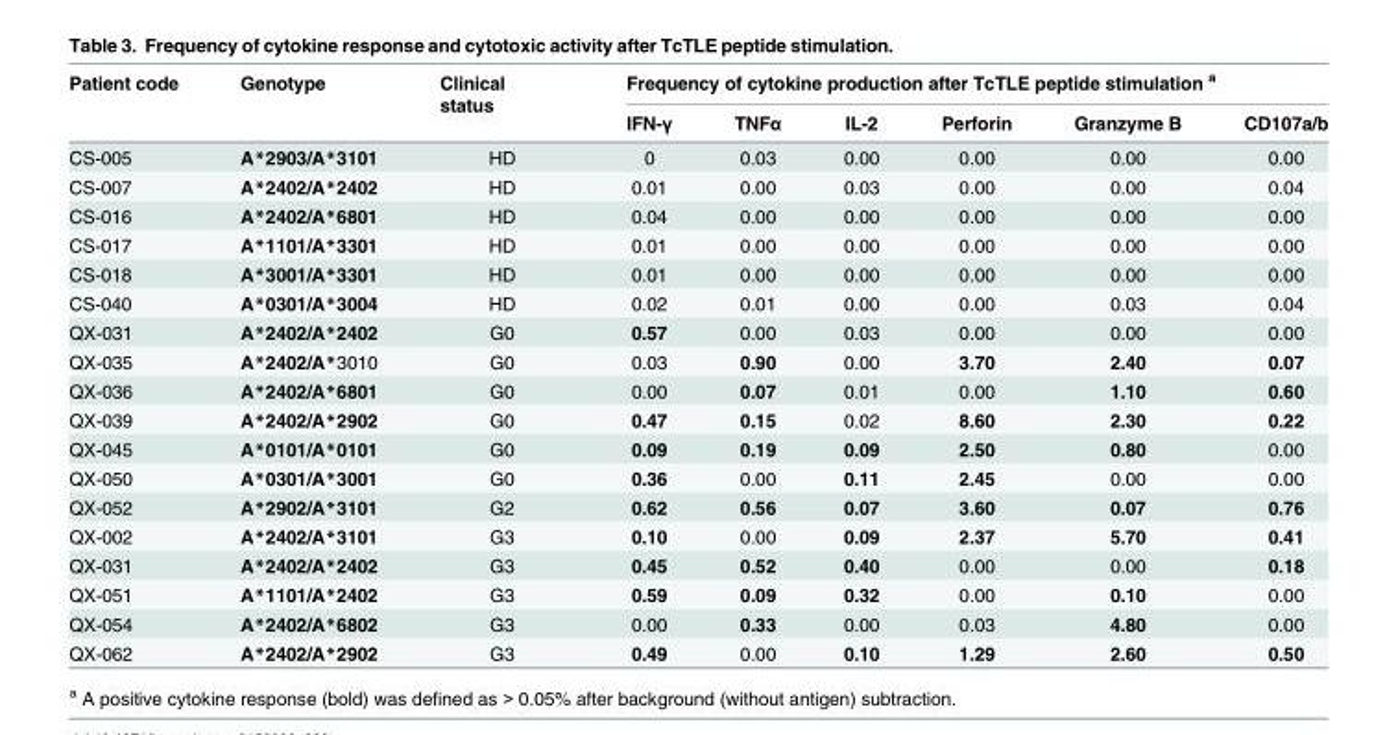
<table><thead><tr><td rowspan="2">Patient code</td><td rowspan="2">Genotype</td><td rowspan="2">Clinical status</td><td colspan="6">Frequency of cytokine production after TcTLE peptide stimulation <sup>a</sup></td></tr><tr><td>IFN-γ</td><td>TNFα</td><td>IL-2</td><td>Perforin</td><td>Granzyme B</td><td>CD107a/b</td></tr></thead><tbody><tr><td>CS-005</td><td>A*2903/A*3101</td><td>HD</td><td>0</td><td>0.03</td><td>0.00</td><td>0.00</td><td>0.00</td><td>0.00</td></tr><tr><td>CS-007</td><td>A*2402/A*2402</td><td>HD</td><td>0.01</td><td>0.00</td><td>0.03</td><td>0.00</td><td>0.00</td><td>0.04</td></tr><tr><td>CS-016</td><td>A*2402/A*6801</td><td>HD</td><td>0.04</td><td>0.00</td><td>0.00</td><td>0.00</td><td>0.00</td><td>0.00</td></tr><tr><td>CS-017</td><td>A*1101/A*3301</td><td>HD</td><td>0.01</td><td>0.00</td><td>0.00</td><td>0.00</td><td>0.00</td><td>0.00</td></tr><tr><td>CS-018</td><td>A*3001/A*3301</td><td>HD</td><td>0.01</td><td>0.00</td><td>0.00</td><td>0.00</td><td>0.00</td><td>0.00</td></tr><tr><td>CS-040</td><td>A*0301/A*3004</td><td>HD</td><td>0.02</td><td>0.01</td><td>0.00</td><td>0.00</td><td>0.03</td><td>0.04</td></tr><tr><td>QX-031</td><td>A*2402/A*2402</td><td>G0</td><td>0.57</td><td>0.00</td><td>0.03</td><td>0.00</td><td>0.00</td><td>0.00</td></tr><tr><td>QX-035</td><td>A*2402/A*3010</td><td>G0</td><td>0.03</td><td>0.90</td><td>0.00</td><td>3.70</td><td>2.40</td><td>0.07</td></tr><tr><td>QX-036</td><td>A*2402/A*6801</td><td>G0</td><td>0.00</td><td>0.07</td><td>0.01</td><td>0.00</td><td>1.10</td><td>0.60</td></tr><tr><td>QX-039</td><td>A*2402/A*2902</td><td>G0</td><td>0.47</td><td>0.15</td><td>0.02</td><td>8.60</td><td>2.30</td><td>0.22</td></tr><tr><td>QX-045</td><td>A*0101/A*0101</td><td>G0</td><td>0.09</td><td>0.19</td><td>0.09</td><td>2.50</td><td>0.80</td><td>0.00</td></tr><tr><td>QX-050</td><td>A*0301/A*3001</td><td>G0</td><td>0.36</td><td>0.00</td><td>0.11</td><td>2.45</td><td>0.00</td><td>0.00</td></tr><tr><td>QX-052</td><td>A*2902/A*3101</td><td>G2</td><td>0.62</td><td>0.56</td><td>0.07</td><td>3.60</td><td>0.07</td><td>0.76</td></tr><tr><td>QX-002</td><td>A*2402/A*3101</td><td>G3</td><td>0.10</td><td>0.00</td><td>0.09</td><td>2.37</td><td>5.70</td><td>0.41</td></tr><tr><td>QX-031</td><td>A*2402/A*2402</td><td>G3</td><td>0.45</td><td>0.52</td><td>0.40</td><td>0.00</td><td>0.00</td><td>0.18</td></tr><tr><td>QX-051</td><td>A*1101/A*2402</td><td>G3</td><td>0.59</td><td>0.09</td><td>0.32</td><td>0.00</td><td>0.10</td><td>0.00</td></tr><tr><td>QX-054</td><td>A*2402/A*6802</td><td>G3</td><td>0.00</td><td>0.33</td><td>0.00</td><td>0.03</td><td>4.80</td><td>0.00</td></tr><tr><td>QX-062</td><td>A*2402/A*2902</td><td>G3</td><td>0.49</td><td>0.00</td><td>0.10</td><td>1.29</td><td>2.60</td><td>0.50</td></tr></tbody></table>